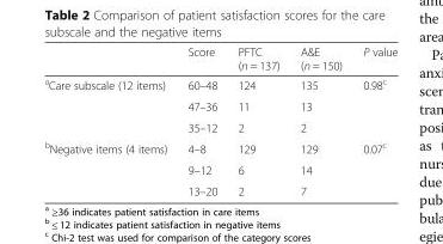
<table><thead><tr><td></td><td>Score</td><td>PFTC (n = 137)</td><td>A&amp;E (n = 150)</td><td>P value</td></tr></thead><tbody><tr><td rowspan="3"><sup>a</sup>Care subscale (12 items)</td><td>60–48</td><td>124</td><td>135</td><td rowspan="3">0.98<sup>c</sup></td></tr><tr><td>47–36</td><td>11</td><td>13</td></tr><tr><td>35–12</td><td>2</td><td>2</td></tr><tr><td rowspan="3"><sup>b</sup>Negative items (4 items)</td><td>4–8</td><td>129</td><td>129</td><td rowspan="3">0.07<sup>c</sup></td></tr><tr><td>9–12</td><td>6</td><td>14</td></tr><tr><td>13–20</td><td>2</td><td>7</td></tr></tbody></table>